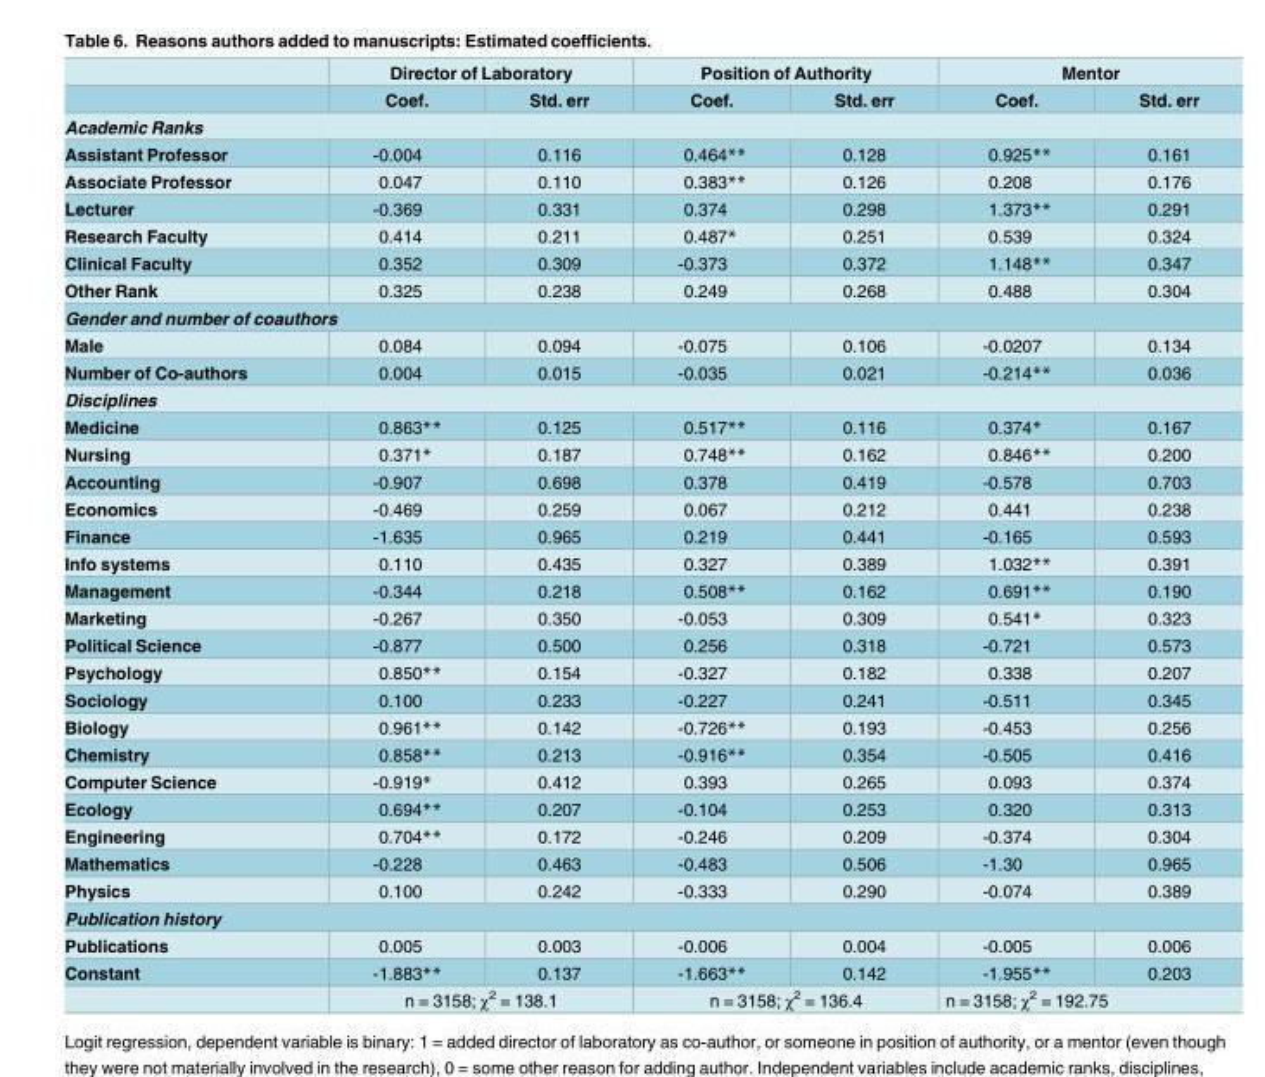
<table><thead><tr><td rowspan="2"></td><td colspan="2">Director of Laboratory</td><td colspan="2">Position of Authority</td><td colspan="2">Mentor</td></tr><tr><td>Coef.</td><td>Std. err</td><td>Coef.</td><td>Std. err</td><td>Coef.</td><td>Std. err</td></tr></thead><tbody><tr><td colspan="7">Academic Ranks</td></tr><tr><td>Assistant Professor</td><td>-0.004</td><td>0.116</td><td>0.464**</td><td>0.128</td><td>0.925**</td><td>0.161</td></tr><tr><td>Associate Professor</td><td>0.047</td><td>0.110</td><td>0.383**</td><td>0.126</td><td>0.208</td><td>0.176</td></tr><tr><td>Lecturer</td><td>-0.369</td><td>0.331</td><td>0.374</td><td>0.298</td><td>1.373**</td><td>0.291</td></tr><tr><td>Research Faculty</td><td>0.414</td><td>0.211</td><td>0.487*</td><td>0.251</td><td>0.539</td><td>0.324</td></tr><tr><td>Clinical Faculty</td><td>0.352</td><td>0.309</td><td>-0.373</td><td>0.372</td><td>1.148**</td><td>0.347</td></tr><tr><td>Other Rank</td><td>0.325</td><td>0.238</td><td>0.249</td><td>0.268</td><td>0.488</td><td>0.304</td></tr><tr><td colspan="7">Gender and number of coauthors</td></tr><tr><td>Male</td><td>0.084</td><td>0.094</td><td>-0.075</td><td>0.106</td><td>-0.0207</td><td>0.134</td></tr><tr><td>Number of Co-authors</td><td>0.004</td><td>0.015</td><td>-0.035</td><td>0.021</td><td>-0.214**</td><td>0.036</td></tr><tr><td colspan="7">Disciplines</td></tr><tr><td>Medicine</td><td>0.863**</td><td>0.125</td><td>0.517**</td><td>0.116</td><td>0.374*</td><td>0.167</td></tr><tr><td>Nursing</td><td>0.371*</td><td>0.187</td><td>0.748**</td><td>0.162</td><td>0.846**</td><td>0.200</td></tr><tr><td>Accounting</td><td>-0.907</td><td>0.698</td><td>0.378</td><td>0.419</td><td>-0.578</td><td>0.703</td></tr><tr><td>Economics</td><td>-0.469</td><td>0.259</td><td>0.067</td><td>0.212</td><td>0.441</td><td>0.238</td></tr><tr><td>Finance</td><td>-1.635</td><td>0.965</td><td>0.219</td><td>0.441</td><td>-0.165</td><td>0.593</td></tr><tr><td>Info systems</td><td>0.110</td><td>0.435</td><td>0.327</td><td>0.389</td><td>1.032**</td><td>0.391</td></tr><tr><td>Management</td><td>-0.344</td><td>0.218</td><td>0.508**</td><td>0.162</td><td>0.691**</td><td>0.190</td></tr><tr><td>Marketing</td><td>-0.267</td><td>0.350</td><td>-0.053</td><td>0.309</td><td>0.541*</td><td>0.323</td></tr><tr><td>Political Science</td><td>-0.877</td><td>0.500</td><td>0.256</td><td>0.318</td><td>-0.721</td><td>0.573</td></tr><tr><td>Psychology</td><td>0.850**</td><td>0.154</td><td>-0.327</td><td>0.182</td><td>0.338</td><td>0.207</td></tr><tr><td>Sociology</td><td>0.100</td><td>0.233</td><td>-0.227</td><td>0.241</td><td>-0.511</td><td>0.345</td></tr><tr><td>Biology</td><td>0.961**</td><td>0.142</td><td>-0.726**</td><td>0.193</td><td>-0.453</td><td>0.256</td></tr><tr><td>Chemistry</td><td>0.858**</td><td>0.213</td><td>-0.916**</td><td>0.354</td><td>-0.505</td><td>0.416</td></tr><tr><td>Computer Science</td><td>-0.919*</td><td>0.412</td><td>0.393</td><td>0.265</td><td>0.093</td><td>0.374</td></tr><tr><td>Ecology</td><td>0.694**</td><td>0.207</td><td>-0.104</td><td>0.253</td><td>0.320</td><td>0.313</td></tr><tr><td>Engineering</td><td>0.704**</td><td>0.172</td><td>-0.246</td><td>0.209</td><td>-0.374</td><td>0.304</td></tr><tr><td>Mathematics</td><td>-0.228</td><td>0.463</td><td>-0.483</td><td>0.506</td><td>-1.30</td><td>0.965</td></tr><tr><td>Physics</td><td>0.100</td><td>0.242</td><td>-0.333</td><td>0.290</td><td>-0.074</td><td>0.389</td></tr><tr><td colspan="7">Publication history</td></tr><tr><td>Publications</td><td>0.005</td><td>0.003</td><td>-0.006</td><td>0.004</td><td>-0.005</td><td>0.006</td></tr><tr><td rowspan="2">Constant</td><td>-1.883**</td><td>0.137</td><td>-1.663**</td><td>0.142</td><td>-1.955**</td><td>0.203</td></tr><tr><td colspan="2">n = 3158; χ<sup>2</sup> = 138.1</td><td colspan="2">n = 3158; χ<sup>2</sup> = 136.4</td><td colspan="2">n = 3158; χ<sup>2</sup> = 192.75</td></tr></tbody></table>